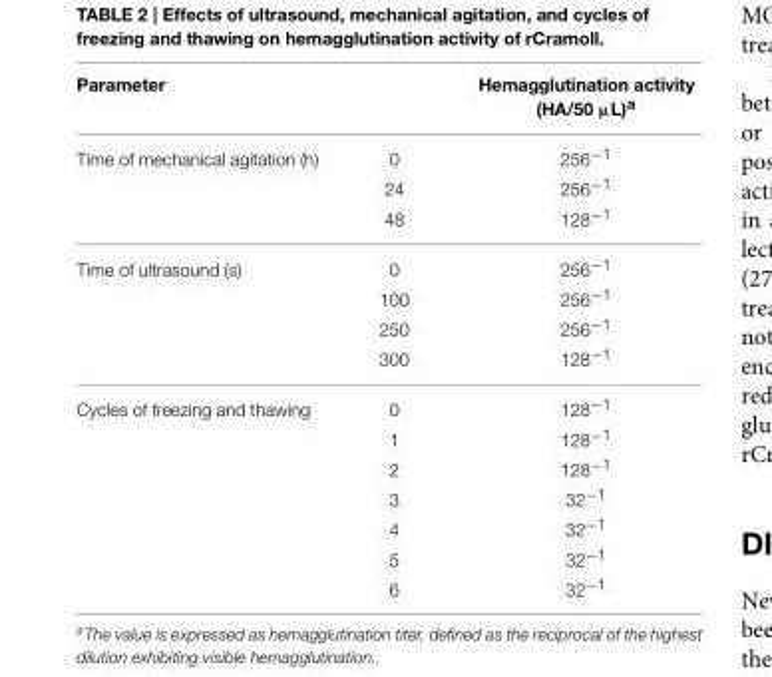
<table><thead><tr><td>Parameter</td><td></td><td>Hemagglutination activity (HA/50 µL)<sup>a</sup></td></tr></thead><tbody><tr><td rowspan="3">Time of mechanical agitation (h)</td><td>0</td><td>256<sup>−1</sup></td></tr><tr><td>24</td><td>256<sup>−1</sup></td></tr><tr><td>48</td><td>128<sup>−1</sup></td></tr><tr><td rowspan="4">Time of ultrasound (s)</td><td>0</td><td>256<sup>−1</sup></td></tr><tr><td>100</td><td>256<sup>−1</sup></td></tr><tr><td>250</td><td>256<sup>−1</sup></td></tr><tr><td>300</td><td>128<sup>−1</sup></td></tr><tr><td rowspan="7">Cycles of freezing and thawing</td><td>0</td><td>128<sup>−1</sup></td></tr><tr><td>1</td><td>128<sup>−1</sup></td></tr><tr><td>2</td><td>128<sup>−1</sup></td></tr><tr><td>3</td><td>32<sup>−1</sup></td></tr><tr><td>4</td><td>32<sup>−1</sup></td></tr><tr><td>5</td><td>32<sup>−1</sup></td></tr><tr><td>6</td><td>32<sup>−1</sup></td></tr></tbody></table>